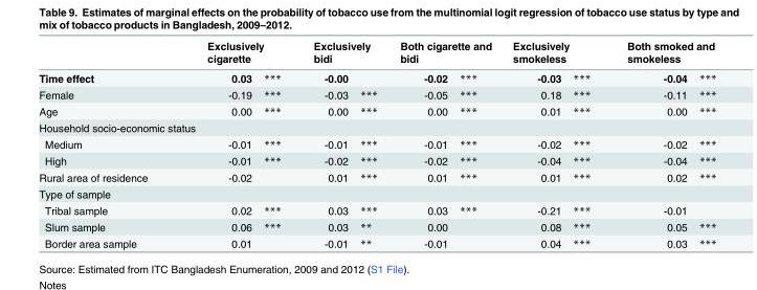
<table><thead><tr><td rowspan="2">Time effect</td><td colspan="2">Exclusively cigarette</td><td colspan="2">Exclusively bidi</td><td colspan="2">Both cigarette and bidi</td><td colspan="2">Exclusively smokeless</td><td colspan="2">Both smoked and smokeless</td></tr><tr><td>0.03</td><td>***</td><td>-0.00</td><td></td><td>-0.02</td><td>***</td><td>-0.03</td><td>***</td><td>-0.04</td><td>***</td></tr></thead><tbody><tr><td>Female</td><td>-0.19</td><td>***</td><td>-0.03</td><td>***</td><td>-0.05</td><td>***</td><td>0.18</td><td>***</td><td>-0.11</td><td>***</td></tr><tr><td>Age</td><td>0.00</td><td>***</td><td>0.00</td><td>***</td><td>0.00</td><td>***</td><td>0.01</td><td>***</td><td>0.00</td><td>***</td></tr><tr><td colspan="11">Household socio-economic status</td></tr><tr><td>Medium</td><td>-0.01</td><td>***</td><td>-0.01</td><td>***</td><td>-0.01</td><td>***</td><td>-0.02</td><td>***</td><td>-0.02</td><td>***</td></tr><tr><td>High</td><td>-0.01</td><td>***</td><td>-0.02</td><td>***</td><td>-0.02</td><td>***</td><td>-0.04</td><td>***</td><td>-0.04</td><td>***</td></tr><tr><td>Rural area of residence</td><td>-0.02</td><td></td><td>0.01</td><td>***</td><td>0.01</td><td>***</td><td>0.01</td><td>***</td><td>0.02</td><td>***</td></tr><tr><td colspan="11">Type of sample</td></tr><tr><td>Tribal sample</td><td>0.02</td><td>***</td><td>0.03</td><td>***</td><td>0.03</td><td>***</td><td>-0.21</td><td>***</td><td>-0.01</td><td></td></tr><tr><td>Slum sample</td><td>0.06</td><td>***</td><td>0.03</td><td>**</td><td>0.00</td><td></td><td>0.08</td><td>***</td><td>0.05</td><td>***</td></tr><tr><td>Border area sample</td><td>0.01</td><td></td><td>-0.01</td><td>**</td><td>-0.01</td><td></td><td>0.04</td><td>***</td><td>0.03</td><td>***</td></tr></tbody></table>